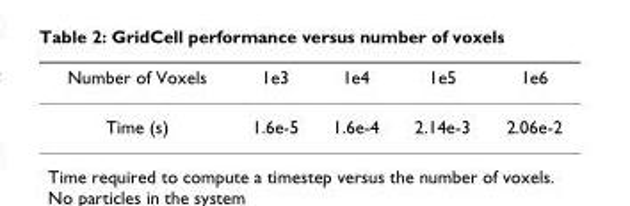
<table><thead><tr><td>Number of Voxels</td><td>1e3</td><td>1e4</td><td>1e5</td><td>1e6</td></tr></thead><tbody><tr><td>Time (s)</td><td>1.6e-5</td><td>1.6e-4</td><td>2.14e-3</td><td>2.06e-2</td></tr></tbody></table>